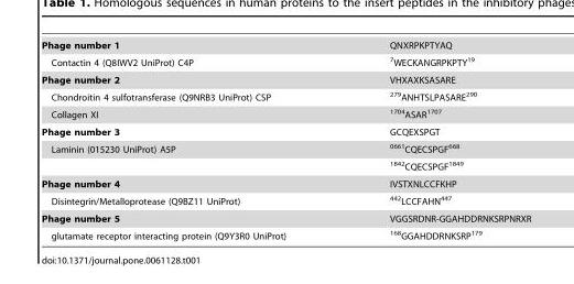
<table><tbody><tr><td>Phage number 1</td><td>QNXRPKPTYAQ</td></tr><tr><td>Contactin 4 (Q8IWV2 UniProt) C4P</td><td><sup>7</sup>WECKANGRPKPTY<sup>19</sup></td></tr><tr><td>Phage number 2</td><td>VHXAXKSASARE</td></tr><tr><td>Chondroitin 4 sulfotransferase (Q9NRB3 UniProt) CSP</td><td><sup>279</sup>ANHTSLPASARE<sup>290</sup></td></tr><tr><td>Collagen XI</td><td><sup>1704</sup>ASAR<sup>1707</sup></td></tr><tr><td>Phage number 3</td><td>GCQEXSPGT</td></tr><tr><td rowspan="2">Laminin (015230 UniProt) A5P</td><td><sup>0661</sup>CQECSPGF<sup>668</sup></td></tr><tr><td><sup>1842</sup>CQECSPGF<sup>1849</sup></td></tr><tr><td>Phage number 4</td><td>IVSTXNLCCFKHP</td></tr><tr><td>Disintegrin/Metalloprotease (Q9BZ11 UniProt)</td><td><sup>442</sup>LCCFAHN<sup>447</sup></td></tr><tr><td>Phage number 5</td><td>VGGSRDNR-GGAHDDRNKSRPNRXR</td></tr><tr><td>glutamate receptor interacting protein (Q9Y3R0 UniProt)</td><td><sup>168</sup>GGAHDDRNKSRP<sup>179</sup></td></tr></tbody></table>